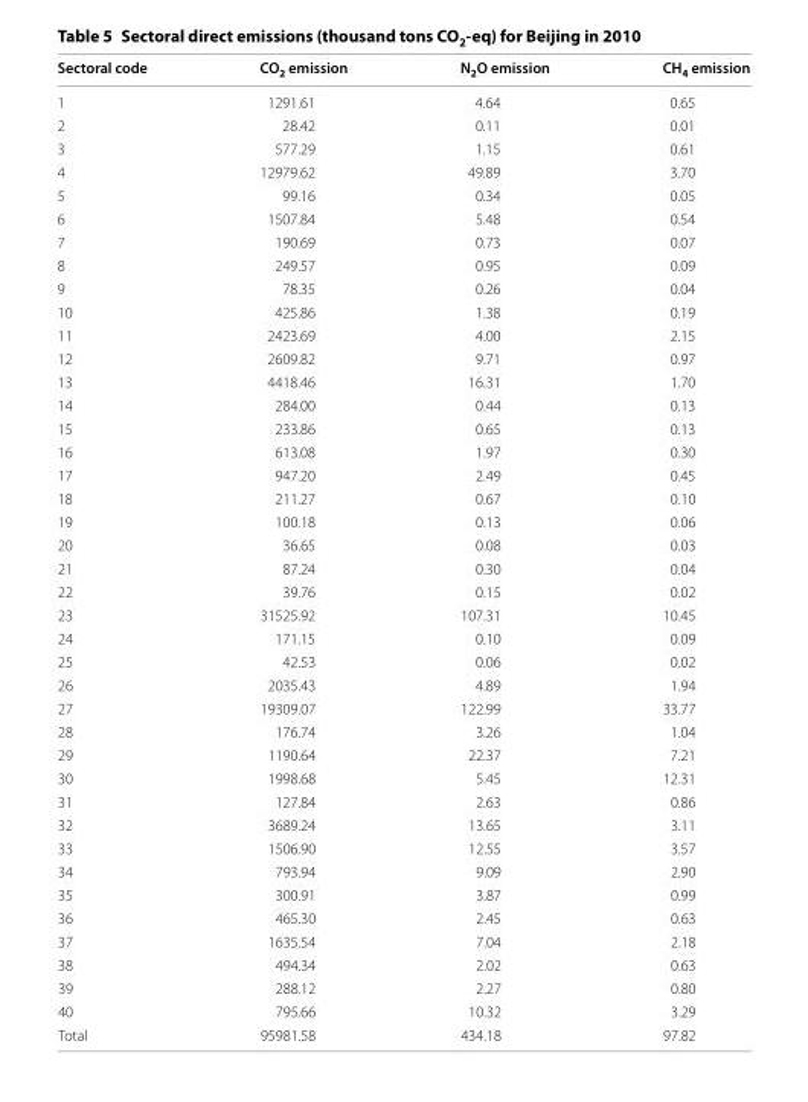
<table><thead><tr><td>Sectoral code</td><td>CO<sub>2</sub> emission</td><td>N<sub>2</sub>O emission</td><td>CH<sub>4</sub> emission</td></tr></thead><tbody><tr><td>1</td><td>1291.61</td><td>4.64</td><td>0.65</td></tr><tr><td>2</td><td>28.42</td><td>0.11</td><td>0.01</td></tr><tr><td>3</td><td>577.29</td><td>1.15</td><td>0.61</td></tr><tr><td>4</td><td>12979.62</td><td>49.89</td><td>3.70</td></tr><tr><td>5</td><td>99.16</td><td>0.34</td><td>0.05</td></tr><tr><td>6</td><td>1507.84</td><td>5.48</td><td>0.54</td></tr><tr><td>7</td><td>190.69</td><td>0.73</td><td>0.07</td></tr><tr><td>8</td><td>249.57</td><td>0.95</td><td>0.09</td></tr><tr><td>9</td><td>78.35</td><td>0.26</td><td>0.04</td></tr><tr><td>10</td><td>425.86</td><td>1.38</td><td>0.19</td></tr><tr><td>11</td><td>2423.69</td><td>4.00</td><td>2.15</td></tr><tr><td>12</td><td>2609.82</td><td>9.71</td><td>0.97</td></tr><tr><td>13</td><td>4418.46</td><td>16.31</td><td>1.70</td></tr><tr><td>14</td><td>284.00</td><td>0.44</td><td>0.13</td></tr><tr><td>15</td><td>233.86</td><td>0.65</td><td>0.13</td></tr><tr><td>16</td><td>613.08</td><td>1.97</td><td>0.30</td></tr><tr><td>17</td><td>947.20</td><td>2.49</td><td>0.45</td></tr><tr><td>18</td><td>211.27</td><td>0.67</td><td>0.10</td></tr><tr><td>19</td><td>100.18</td><td>0.13</td><td>0.06</td></tr><tr><td>20</td><td>36.65</td><td>0.08</td><td>0.03</td></tr><tr><td>21</td><td>87.24</td><td>0.30</td><td>0.04</td></tr><tr><td>22</td><td>39.76</td><td>0.15</td><td>0.02</td></tr><tr><td>23</td><td>31525.92</td><td>107.31</td><td>10.45</td></tr><tr><td>24</td><td>171.15</td><td>0.10</td><td>0.09</td></tr><tr><td>25</td><td>42.53</td><td>0.06</td><td>0.02</td></tr><tr><td>26</td><td>2035.43</td><td>4.89</td><td>1.94</td></tr><tr><td>27</td><td>19309.07</td><td>122.99</td><td>33.77</td></tr><tr><td>28</td><td>176.74</td><td>3.26</td><td>1.04</td></tr><tr><td>29</td><td>1190.64</td><td>22.37</td><td>7.21</td></tr><tr><td>30</td><td>1998.68</td><td>5.45</td><td>12.31</td></tr><tr><td>31</td><td>127.84</td><td>2.63</td><td>0.86</td></tr><tr><td>32</td><td>3689.24</td><td>13.65</td><td>3.11</td></tr><tr><td>33</td><td>1506.90</td><td>12.55</td><td>3.57</td></tr><tr><td>34</td><td>793.94</td><td>9.09</td><td>2.90</td></tr><tr><td>35</td><td>300.91</td><td>3.87</td><td>0.99</td></tr><tr><td>36</td><td>465.30</td><td>2.45</td><td>0.63</td></tr><tr><td>37</td><td>1635.54</td><td>7.04</td><td>2.18</td></tr><tr><td>38</td><td>494.34</td><td>2.02</td><td>0.63</td></tr><tr><td>39</td><td>288.12</td><td>2.27</td><td>0.80</td></tr><tr><td>40</td><td>795.66</td><td>10.32</td><td>3.29</td></tr><tr><td>Total</td><td>95981.58</td><td>434.18</td><td>97.82</td></tr></tbody></table>